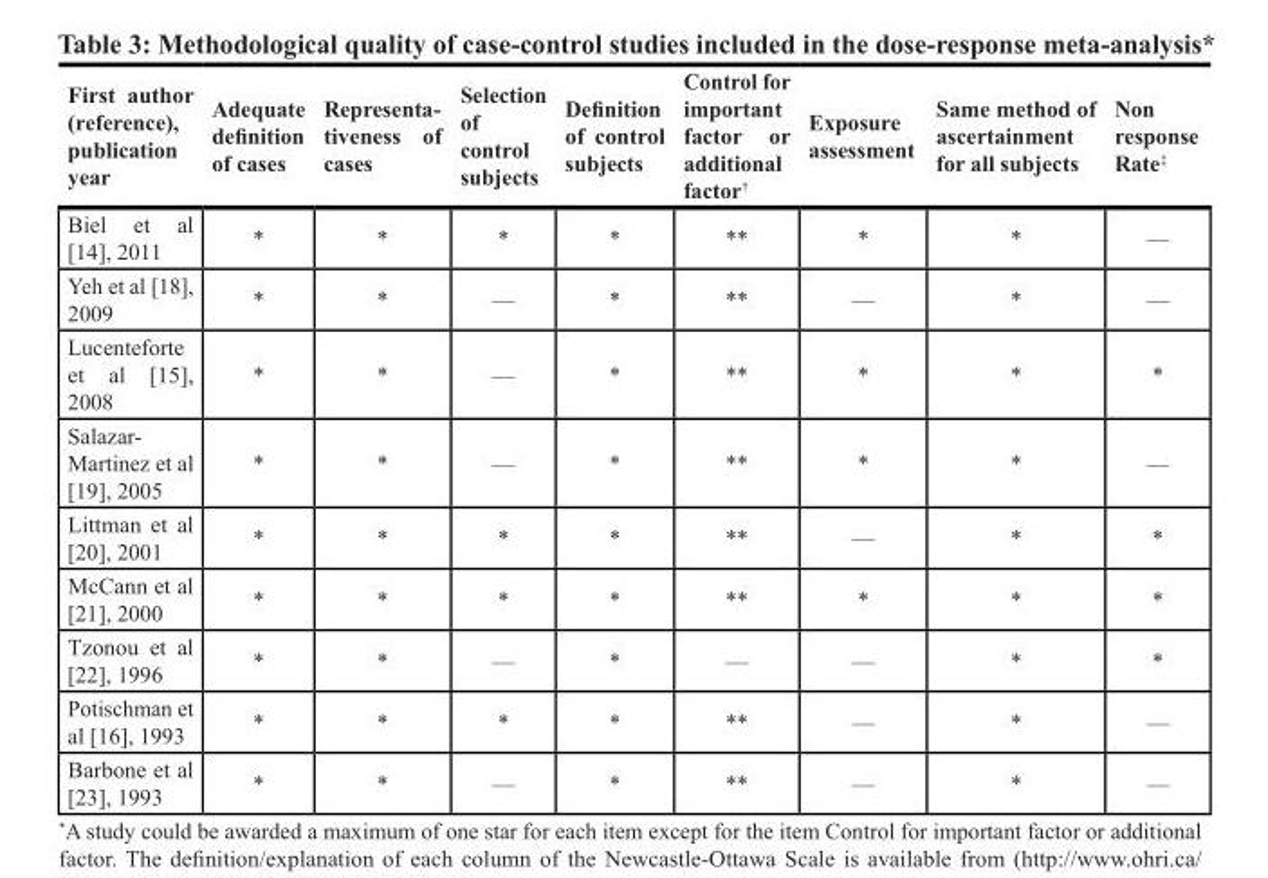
<table><thead><tr><td>First author (reference), publication year</td><td>Adequate definition of cases</td><td>Representa- tiveness of cases</td><td>Selection of control subjects</td><td>Definition of control subjects</td><td>Control for important factor or additional factor<sup>†</sup></td><td>Exposure assessment</td><td>Same method of ascertainment for all subjects</td><td>Non response Rate<sup>‡</sup></td></tr></thead><tbody><tr><td>Biel et al [14], 2011</td><td>*</td><td>*</td><td>*</td><td>*</td><td>**</td><td>*</td><td>*</td><td>—</td></tr><tr><td>Yeh et al [18], 2009</td><td>*</td><td>*</td><td>—</td><td>*</td><td>**</td><td>—</td><td>*</td><td>—</td></tr><tr><td>Lucenteforte et al [15], 2008</td><td>*</td><td>*</td><td>—</td><td>*</td><td>**</td><td>*</td><td>*</td><td>*</td></tr><tr><td>Salazar- Martinez et al [19], 2005</td><td>*</td><td>*</td><td>—</td><td>*</td><td>**</td><td>*</td><td>*</td><td>—</td></tr><tr><td>Littman et al [20], 2001</td><td>*</td><td>*</td><td>*</td><td>*</td><td>**</td><td>—</td><td>*</td><td>*</td></tr><tr><td>McCann et al [21], 2000</td><td>*</td><td>*</td><td>*</td><td>*</td><td>**</td><td>*</td><td>*</td><td>*</td></tr><tr><td>Tzonou et al [22], 1996</td><td>*</td><td>*</td><td>—</td><td>*</td><td>—</td><td>—</td><td>*</td><td>*</td></tr><tr><td>Potischman et al [16], 1993</td><td>*</td><td>*</td><td>*</td><td>*</td><td>**</td><td>—</td><td>*</td><td>—</td></tr><tr><td>Barbone et al [23], 1993</td><td>*</td><td>*</td><td>—</td><td>*</td><td>**</td><td>—</td><td>*</td><td>—</td></tr></tbody></table>